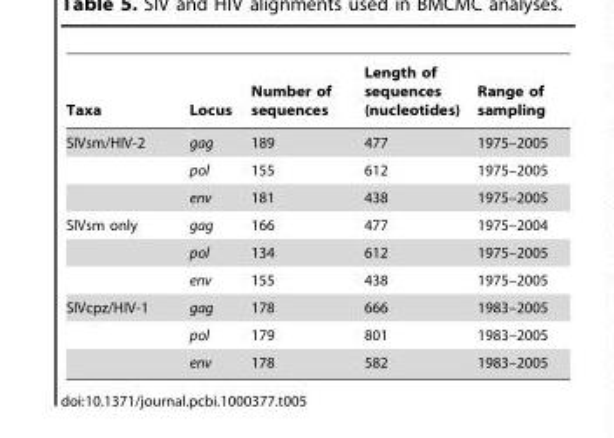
<table><thead><tr><td>Taxa</td><td>Locus</td><td>Number of sequences</td><td>Length of sequences (nucleotides)</td><td>Range of sampling</td></tr></thead><tbody><tr><td rowspan="3">SIVsm/HIV-2</td><td>gag</td><td>189</td><td>477</td><td>1975–2005</td></tr><tr><td>pol</td><td>155</td><td>612</td><td>1975–2005</td></tr><tr><td>env</td><td>181</td><td>438</td><td>1975–2005</td></tr><tr><td rowspan="3">SIVsm only</td><td>gag</td><td>166</td><td>477</td><td>1975–2004</td></tr><tr><td>pol</td><td>134</td><td>612</td><td>1975–2005</td></tr><tr><td>env</td><td>155</td><td>438</td><td>1975–2005</td></tr><tr><td rowspan="3">SIVcpz/HIV-1</td><td>gag</td><td>178</td><td>666</td><td>1983–2005</td></tr><tr><td>pol</td><td>179</td><td>801</td><td>1983–2005</td></tr><tr><td>env</td><td>178</td><td>582</td><td>1983–2005</td></tr></tbody></table>